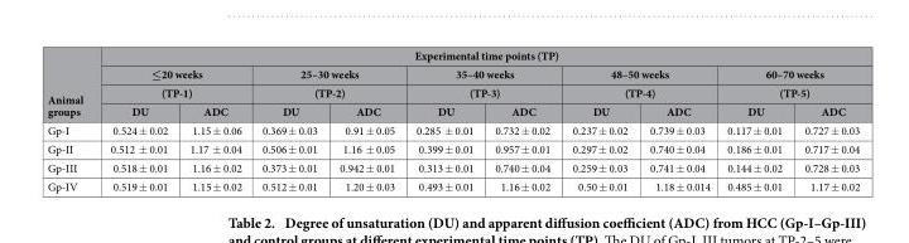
<table><thead><tr><td rowspan="4">Animal groups</td><td colspan="10">Experimental time points (TP)</td></tr><tr><td rowspan="2" colspan="2">≤20 weeks (TP-1)</td><td rowspan="2" colspan="2">25–30 weeks (TP-2)</td><td rowspan="2" colspan="2">35–40 weeks (TP-3)</td><td rowspan="2" colspan="2">48–50 weeks (TP-4)</td><td rowspan="2" colspan="2">60–70 weeks (TP-5)</td></tr><tr></tr><tr><td>DU</td><td>ADC</td><td>DU</td><td>ADC</td><td>DU</td><td>ADC</td><td>DU</td><td>ADC</td><td>DU</td><td>ADC</td></tr></thead><tbody><tr><td>Gp-I</td><td>0.524 ± 0.02</td><td>1.15 ± 0.06</td><td>0.369 ± 0.03</td><td>0.91 ± 0.05</td><td>0.285 ± 0.01</td><td>0.732 ± 0.02</td><td>0.237 ± 0.02</td><td>0.739 ± 0.03</td><td>0.117 ± 0.01</td><td>0.727 ± 0.03</td></tr><tr><td>Gp-II</td><td>0.512 ± 0.01</td><td>1.17 ± 0.04</td><td>0.506 ± 0.01</td><td>1.16 ± 0.05</td><td>0.399 ± 0.01</td><td>0.957 ± 0.01</td><td>0.297 ± 0.02</td><td>0.740 ± 0.04</td><td>0.186 ± 0.01</td><td>0.717 ± 0.04</td></tr><tr><td>Gp-III</td><td>0.518 ± 0.01</td><td>1.16 ± 0.02</td><td>0.373 ± 0.01</td><td>0.942 ± 0.01</td><td>0.313 ± 0.01</td><td>0.740 ± 0.04</td><td>0.259 ± 0.03</td><td>0.741 ± 0.04</td><td>0.144 ± 0.02</td><td>0.728 ± 0.03</td></tr><tr><td>Gp-IV</td><td>0.519 ± 0.01</td><td>1.15 ± 0.02</td><td>0.512 ± 0.01</td><td>1.20 ± 0.03</td><td>0.493 ± 0.01</td><td>1.16 ± 0.02</td><td>0.50 ± 0.01</td><td>1.18 ± 0.014</td><td>0.485 ± 0.01</td><td>1.17 ± 0.02</td></tr></tbody></table>